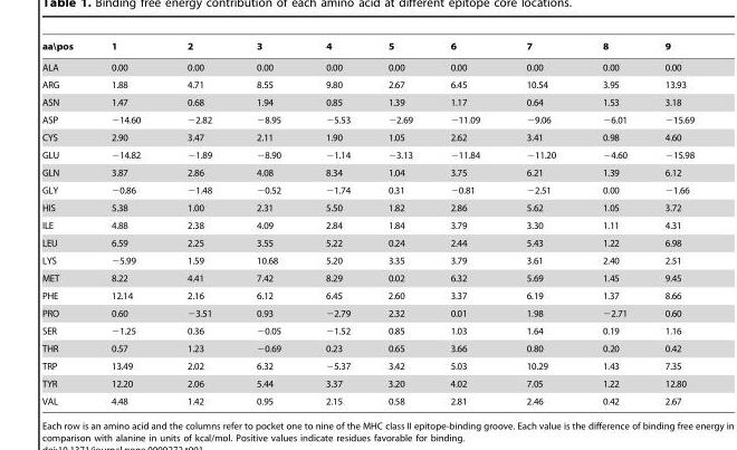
<table><thead><tr><td>aa\pos</td><td>1</td><td>2</td><td>3</td><td>4</td><td>5</td><td>6</td><td>7</td><td>8</td><td>9</td></tr></thead><tbody><tr><td>ALA</td><td>0.00</td><td>0.00</td><td>0.00</td><td>0.00</td><td>0.00</td><td>0.00</td><td>0.00</td><td>0.00</td><td>0.00</td></tr><tr><td>ARG</td><td>1.88</td><td>4.71</td><td>8.55</td><td>9.80</td><td>2.67</td><td>6.45</td><td>10.54</td><td>3.95</td><td>13.93</td></tr><tr><td>ASN</td><td>1.47</td><td>0.68</td><td>1.94</td><td>0.85</td><td>1.39</td><td>1.17</td><td>0.64</td><td>1.53</td><td>3.18</td></tr><tr><td>ASP</td><td>−14.60</td><td>−2.82</td><td>−8.95</td><td>−5.53</td><td>−2.69</td><td>−11.09</td><td>−9.06</td><td>−6.01</td><td>−15.69</td></tr><tr><td>CYS</td><td>2.90</td><td>3.47</td><td>2.11</td><td>1.90</td><td>1.05</td><td>2.62</td><td>3.41</td><td>0.98</td><td>4.60</td></tr><tr><td>GLU</td><td>−14.82</td><td>−1.89</td><td>−8.90</td><td>−1.14</td><td>−3.13</td><td>−11.84</td><td>−11.20</td><td>−4.60</td><td>−15.98</td></tr><tr><td>GLN</td><td>3.87</td><td>2.86</td><td>4.08</td><td>8.34</td><td>1.04</td><td>3.75</td><td>6.21</td><td>1.39</td><td>6.12</td></tr><tr><td>GLY</td><td>−0.86</td><td>−1.48</td><td>−0.52</td><td>−1.74</td><td>0.31</td><td>−0.81</td><td>−2.51</td><td>0.00</td><td>−1.66</td></tr><tr><td>HIS</td><td>5.38</td><td>1.00</td><td>2.31</td><td>5.50</td><td>1.82</td><td>2.86</td><td>5.62</td><td>1.05</td><td>3.72</td></tr><tr><td>ILE</td><td>4.88</td><td>2.38</td><td>4.09</td><td>2.84</td><td>1.84</td><td>3.79</td><td>3.30</td><td>1.11</td><td>4.31</td></tr><tr><td>LEU</td><td>6.59</td><td>2.25</td><td>3.55</td><td>5.22</td><td>0.24</td><td>2.44</td><td>5.43</td><td>1.22</td><td>6.98</td></tr><tr><td>LYS</td><td>−5.99</td><td>1.59</td><td>10.68</td><td>5.20</td><td>3.35</td><td>3.79</td><td>3.61</td><td>2.40</td><td>2.51</td></tr><tr><td>MET</td><td>8.22</td><td>4.41</td><td>7.42</td><td>8.29</td><td>0.02</td><td>6.32</td><td>5.69</td><td>1.45</td><td>9.45</td></tr><tr><td>PHE</td><td>12.14</td><td>2.16</td><td>6.12</td><td>6.45</td><td>2.60</td><td>3.37</td><td>6.19</td><td>1.37</td><td>8.66</td></tr><tr><td>PRO</td><td>0.60</td><td>−3.51</td><td>0.93</td><td>−2.79</td><td>2.32</td><td>0.01</td><td>1.98</td><td>−2.71</td><td>0.60</td></tr><tr><td>SER</td><td>−1.25</td><td>0.36</td><td>−0.05</td><td>−1.52</td><td>0.85</td><td>1.03</td><td>1.64</td><td>0.19</td><td>1.16</td></tr><tr><td>THR</td><td>0.57</td><td>1.23</td><td>−0.69</td><td>0.23</td><td>0.65</td><td>3.66</td><td>0.80</td><td>0.20</td><td>0.42</td></tr><tr><td>TRP</td><td>13.49</td><td>2.02</td><td>6.32</td><td>−5.37</td><td>3.42</td><td>5.03</td><td>10.29</td><td>1.43</td><td>7.35</td></tr><tr><td>TYR</td><td>12.20</td><td>2.06</td><td>5.44</td><td>3.37</td><td>3.20</td><td>4.02</td><td>7.05</td><td>1.22</td><td>12.80</td></tr><tr><td>VAL</td><td>4.48</td><td>1.42</td><td>0.95</td><td>2.15</td><td>0.58</td><td>2.81</td><td>2.46</td><td>0.42</td><td>2.67</td></tr></tbody></table>